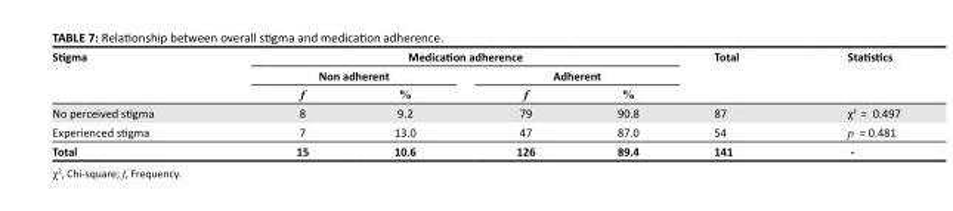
<table><thead><tr><td rowspan="3">Stigma</td><td colspan="4">Medication adherence</td><td rowspan="3">Total</td><td rowspan="3">Statistics</td></tr><tr><td colspan="2">Non adherent</td><td colspan="2">Adherent</td></tr><tr><td>f</td><td>%</td><td>f</td><td>%</td></tr></thead><tbody><tr><td>No perceived stigma</td><td>8</td><td>9.2</td><td>79</td><td>90.8</td><td>87</td><td>χ<sup>2</sup> = 0.497</td></tr><tr><td>Experienced stigma</td><td>7</td><td>13.0</td><td>47</td><td>87.0</td><td>54</td><td>p = 0.481</td></tr><tr><td>Total</td><td>15</td><td>10.6</td><td>126</td><td>89.4</td><td>141</td><td>-</td></tr></tbody></table>